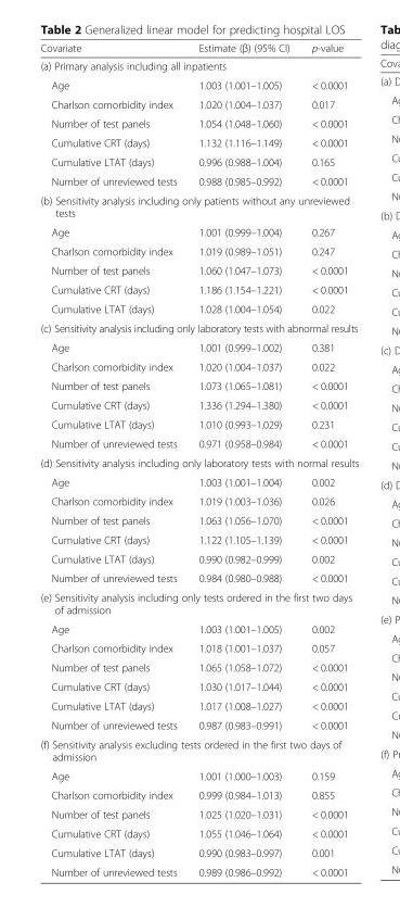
<table><thead><tr><td>Covariate</td><td>Estimate (β) (95% CI)</td><td>p-value</td></tr></thead><tbody><tr><td colspan="3">(a) Primary analysis including all inpatients</td></tr><tr><td>Age</td><td>1.003 (1.001–1.005)</td><td>&lt; 0.0001</td></tr><tr><td>Charlson comorbidity index</td><td>1.020 (1.004–1.037)</td><td>0.017</td></tr><tr><td>Number of test panels</td><td>1.054 (1.048–1.060)</td><td>&lt; 0.0001</td></tr><tr><td>Cumulative CRT (days)</td><td>1.132 (1.116–1.149)</td><td>&lt; 0.0001</td></tr><tr><td>Cumulative LTAT (days)</td><td>0.996 (0.988–1.004)</td><td>0.165</td></tr><tr><td>Number of unreviewed tests</td><td>0.988 (0.985–0.992)</td><td>&lt; 0.0001</td></tr><tr><td colspan="3">(b) Sensitivity analysis including only patients without any unreviewed tests</td></tr><tr><td>Age</td><td>1.001 (0.999–1.004)</td><td>0.267</td></tr><tr><td>Charlson comorbidity index</td><td>1.019 (0.989–1.051)</td><td>0.247</td></tr><tr><td>Number of test panels</td><td>1.060 (1.047–1.073)</td><td>&lt; 0.0001</td></tr><tr><td>Cumulative CRT (days)</td><td>1.186 (1.154–1.221)</td><td>&lt; 0.0001</td></tr><tr><td>Cumulative LTAT (days)</td><td>1.028 (1.004–1.054)</td><td>0.022</td></tr><tr><td colspan="3">(c) Sensitivity analysis including only laboratory tests with abnormal results</td></tr><tr><td>Age</td><td>1.001 (0.999–1.002)</td><td>0.381</td></tr><tr><td>Charlson comorbidity index</td><td>1.020 (1.004–1.037)</td><td>0.022</td></tr><tr><td>Number of test panels</td><td>1.073 (1.065–1.081)</td><td>&lt; 0.0001</td></tr><tr><td>Cumulative CRT (days)</td><td>1.336 (1.294–1.380)</td><td>&lt; 0.0001</td></tr><tr><td>Cumulative LTAT (days)</td><td>1.010 (0.993–1.029)</td><td>0.231</td></tr><tr><td>Number of unreviewed tests</td><td>0.971 (0.958–0.984)</td><td>&lt; 0.0001</td></tr><tr><td colspan="3">(d) Sensitivity analysis including only laboratory tests with normal results</td></tr><tr><td>Age</td><td>1.003 (1.001–1.004)</td><td>0.002</td></tr><tr><td>Charlson comorbidity index</td><td>1.019 (1.003–1.036)</td><td>0.026</td></tr><tr><td>Number of test panels</td><td>1.063 (1.056–1.070)</td><td>&lt; 0.0001</td></tr><tr><td>Cumulative CRT (days)</td><td>1.122 (1.105–1.139)</td><td>&lt; 0.0001</td></tr><tr><td>Cumulative LTAT (days)</td><td>0.990 (0.982–0.999)</td><td>0.002</td></tr><tr><td>Number of unreviewed tests</td><td>0.984 (0.980–0.988)</td><td>&lt; 0.0001</td></tr><tr><td colspan="3">(e) Sensitivity analysis including only tests ordered in the first two days of admission</td></tr><tr><td>Age</td><td>1.003 (1.001–1.005)</td><td>0.002</td></tr><tr><td>Charlson comorbidity index</td><td>1.018 (1.001–1.037)</td><td>0.057</td></tr><tr><td>Number of test panels</td><td>1.065 (1.058–1.072)</td><td>&lt; 0.0001</td></tr><tr><td>Cumulative CRT (days)</td><td>1.030 (1.017–1.044)</td><td>&lt; 0.0001</td></tr><tr><td>Cumulative LTAT (days)</td><td>1.017 (1.008–1.027)</td><td>&lt; 0.0001</td></tr><tr><td>Number of unreviewed tests</td><td>0.987 (0.983–0.991)</td><td>&lt; 0.0001</td></tr><tr><td colspan="3">(f) Sensitivity analysis excluding tests ordered in the first two days of admission</td></tr><tr><td>Age</td><td>1.001 (1.000–1.003)</td><td>0.159</td></tr><tr><td>Charlson comorbidity index</td><td>0.999 (0.984–1.013)</td><td>0.855</td></tr><tr><td>Number of test panels</td><td>1.025 (1.020–1.031)</td><td>&lt; 0.0001</td></tr><tr><td>Cumulative CRT (days)</td><td>1.055 (1.046–1.064)</td><td>&lt; 0.0001</td></tr><tr><td>Cumulative LTAT (days)</td><td>0.990 (0.983–0.997)</td><td>0.001</td></tr><tr><td>Number of unreviewed tests</td><td>0.989 (0.986–0.992)</td><td>&lt; 0.0001</td></tr></tbody></table>